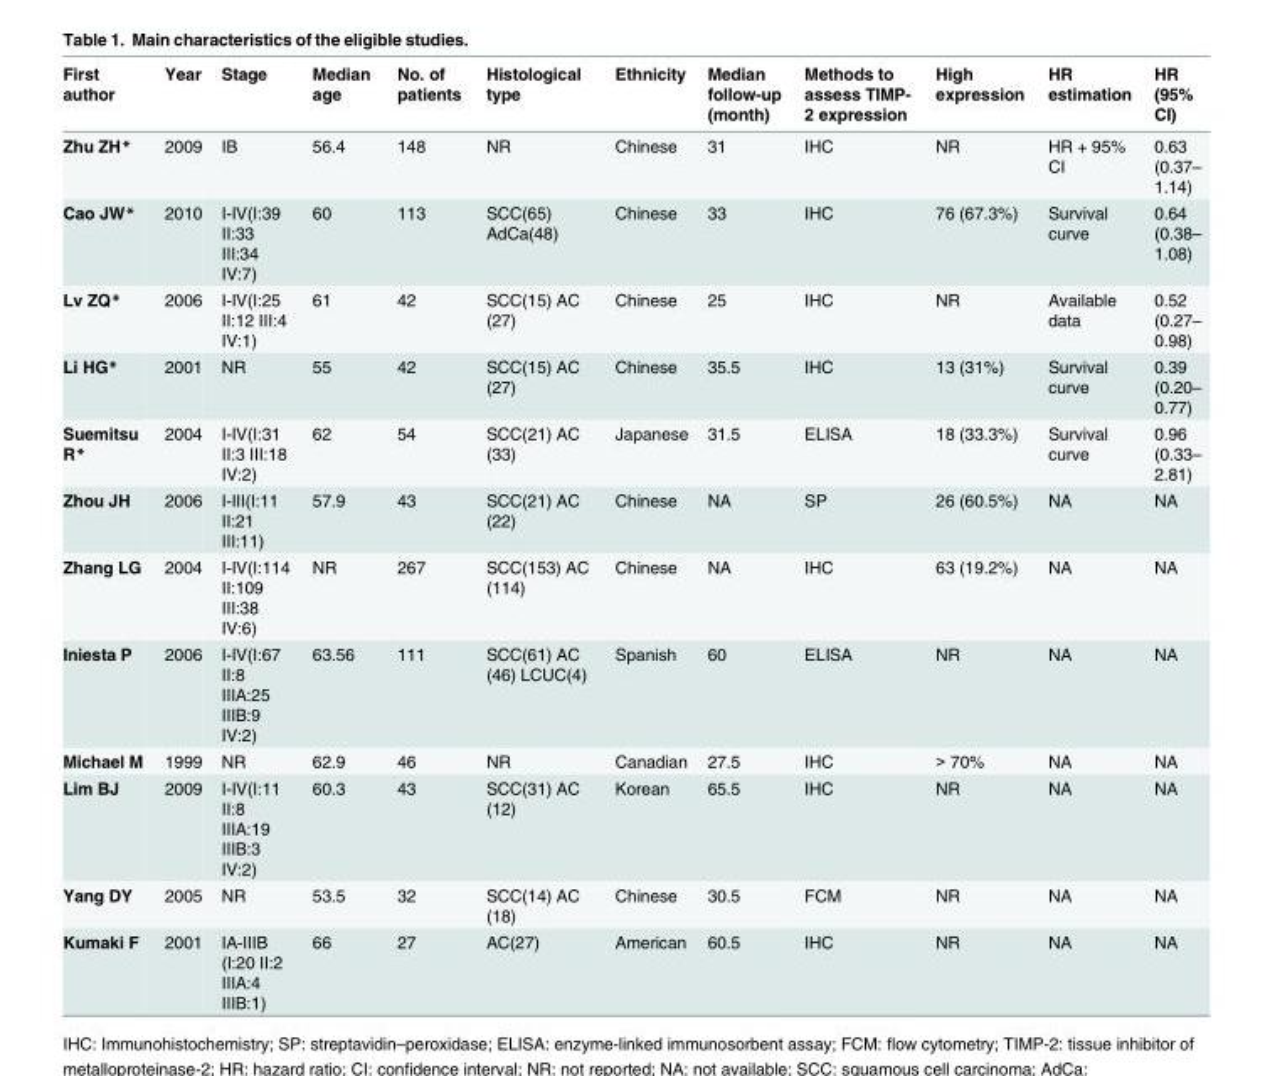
<table><thead><tr><td>First author</td><td>Year</td><td>Stage</td><td>Median age</td><td>No. of patients</td><td>Histological type</td><td>Ethnicity</td><td>Median follow-up (month)</td><td>Methods to assess TIMP- 2 expression</td><td>High expression</td><td>HR estimation</td><td>HR (95% CI)</td></tr></thead><tbody><tr><td>Zhu ZH*</td><td>2009</td><td>IB</td><td>56.4</td><td>148</td><td>NR</td><td>Chinese</td><td>31</td><td>IHC</td><td>NR</td><td>HR + 95% CI</td><td>0.63 (0.37– 1.14)</td></tr><tr><td>Cao JW*</td><td>2010</td><td>I-IV(Ⅰ:39 Ⅱ:33 Ⅲ:34 IV:7)</td><td>60</td><td>113</td><td>SCC(65) AdCa(48)</td><td>Chinese</td><td>33</td><td>IHC</td><td>76 (67.3%)</td><td>Survival curve</td><td>0.64 (0.38– 1.08)</td></tr><tr><td>Lv ZQ*</td><td>2006</td><td>I-IV(Ⅰ:25 Ⅱ:12 Ⅲ:4 IV:1)</td><td>61</td><td>42</td><td>SCC(15) AC (27)</td><td>Chinese</td><td>25</td><td>IHC</td><td>NR</td><td>Available data</td><td>0.52 (0.27– 0.98)</td></tr><tr><td>Li HG*</td><td>2001</td><td>NR</td><td>55</td><td>42</td><td>SCC(15) AC (27)</td><td>Chinese</td><td>35.5</td><td>IHC</td><td>13 (31%)</td><td>Survival curve</td><td>0.39 (0.20– 0.77)</td></tr><tr><td>Suemitsu R*</td><td>2004</td><td>I-IV(Ⅰ:31 Ⅱ:3 Ⅲ:18 IV:2)</td><td>62</td><td>54</td><td>SCC(21) AC (33)</td><td>Japanese</td><td>31.5</td><td>ELISA</td><td>18 (33.3%)</td><td>Survival curve</td><td>0.96 (0.33– 2.81)</td></tr><tr><td>Zhou JH</td><td>2006</td><td>I-III(Ⅰ:11 Ⅱ:21 Ⅲ:11)</td><td>57.9</td><td>43</td><td>SCC(21) AC (22)</td><td>Chinese</td><td>NA</td><td>SP</td><td>26 (60.5%)</td><td>NA</td><td>NA</td></tr><tr><td>Zhang LG</td><td>2004</td><td>I-IV(Ⅰ:114 Ⅱ:109 Ⅲ:38 IV:6)</td><td>NR</td><td>267</td><td>SCC(153) AC (114)</td><td>Chinese</td><td>NA</td><td>IHC</td><td>63 (19.2%)</td><td>NA</td><td>NA</td></tr><tr><td>Iniesta P</td><td>2006</td><td>I-IV(Ⅰ:67 Ⅱ:8 ⅢA:25 ⅢB:9 IV:2)</td><td>63.56</td><td>111</td><td>SCC(61) AC (46) LCUC(4)</td><td>Spanish</td><td>60</td><td>ELISA</td><td>NR</td><td>NA</td><td>NA</td></tr><tr><td>Michael M</td><td>1999</td><td>NR</td><td>62.9</td><td>46</td><td>NR</td><td>Canadian</td><td>27.5</td><td>IHC</td><td>&gt; 70%</td><td>NA</td><td>NA</td></tr><tr><td>Lim BJ</td><td>2009</td><td>I-IV(Ⅰ:11 Ⅱ:8 ⅢA:19 ⅢB:3 IV:2)</td><td>60.3</td><td>43</td><td>SCC(31) AC (12)</td><td>Korean</td><td>65.5</td><td>IHC</td><td>NR</td><td>NA</td><td>NA</td></tr><tr><td>Yang DY</td><td>2005</td><td>NR</td><td>53.5</td><td>32</td><td>SCC(14) AC (18)</td><td>Chinese</td><td>30.5</td><td>FCM</td><td>NR</td><td>NA</td><td>NA</td></tr><tr><td>Kumaki F</td><td>2001</td><td>IA-IIIB (Ⅰ:20 Ⅱ:2 ⅢA:4 ⅢB:1)</td><td>66</td><td>27</td><td>AC(27)</td><td>American</td><td>60.5</td><td>IHC</td><td>NR</td><td>NA</td><td>NA</td></tr></tbody></table>